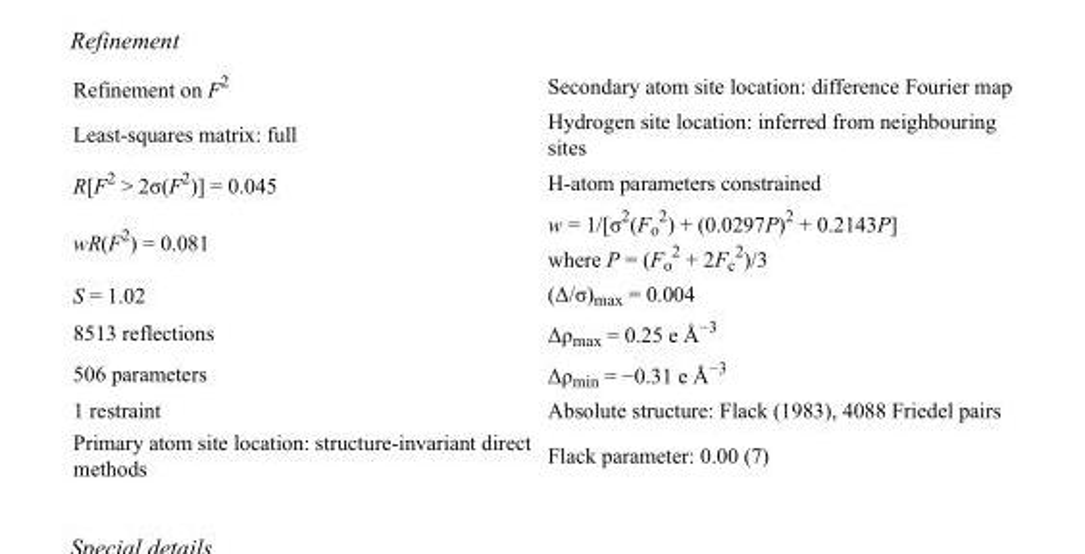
<table><tbody><tr><td>Refinement on F<sup>2</sup></td><td>Secondary atom site location: difference Fourier map</td></tr><tr><td>Least-squares matrix: full</td><td>Hydrogen site location: inferred from neighbouring sites</td></tr><tr><td>R[F<sup>2</sup> &gt; 2σ(F<sup>2</sup>)] = 0.045</td><td>H-atom parameters constrained</td></tr><tr><td>wR(F<sup>2</sup>) = 0.081</td><td>w = 1/[σ<sup>2</sup>(F<sub>o</sub> <sup>2</sup>) + (0.0297P)<sup>2</sup> + 0.2143P] where P = (F<sub>o</sub> <sup>2</sup> + 2F<sub>c</sub> <sup>2</sup>)/3</td></tr><tr><td>S = 1.02</td><td>(Δ/σ)<sub>max</sub> = 0.004</td></tr><tr><td>8513 reflections</td><td>Δρ<sub>max</sub> = 0.25 e Å<sup>−3</sup></td></tr><tr><td>506 parameters</td><td>Δρ<sub>min</sub> = −0.31 e Å<sup>−3</sup></td></tr><tr><td>1 restraint</td><td>Absolute structure: Flack (1983), 4088 Friedel pairs</td></tr><tr><td>Primary atom site location: structure-invariant direct methods</td><td>Flack parameter: 0.00 (7)</td></tr></tbody></table>